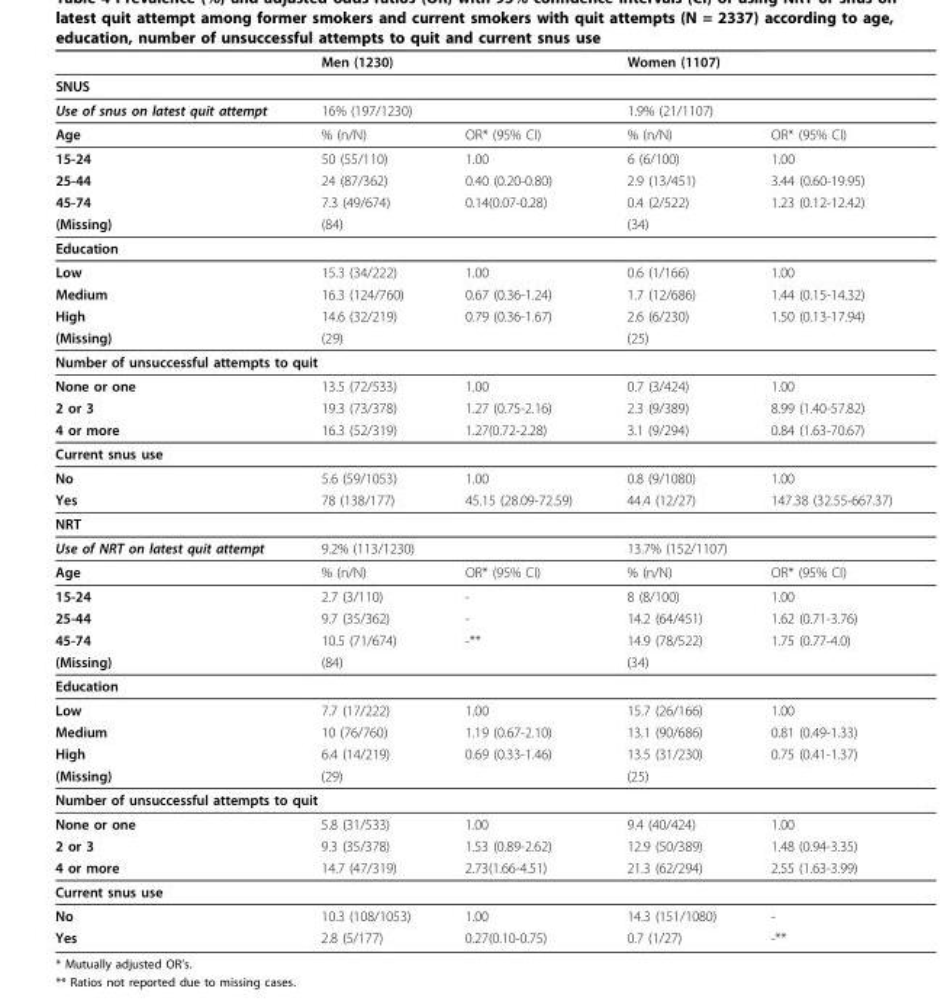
<table><thead><tr><td></td><td colspan="2">Men (1230)</td><td colspan="2">Women (1107)</td></tr><tr><td colspan="5">SNUS</td></tr><tr><td rowspan="2">Use of snus on latest quit attempt Age</td><td colspan="2">16% (197/1230)</td><td colspan="2">1.9% (21/1107)</td></tr><tr><td>% (n/N)</td><td>OR* (95% CI)</td><td>% (n/N)</td><td>OR* (95% CI)</td></tr></thead><tbody><tr><td>15-24</td><td>50 (55/110)</td><td>1.00</td><td>6 (6/100)</td><td>1.00</td></tr><tr><td>25-44</td><td>24 (87/362)</td><td>0.40 (0.20-0.80)</td><td>2.9 (13/451)</td><td>3.44 (0.60-19.95)</td></tr><tr><td>45-74</td><td>7.3 (49/674)</td><td>0.14(0.07-0.28)</td><td>0.4 (2/522)</td><td>1.23 (0.12-12.42)</td></tr><tr><td>(Missing)</td><td>(84)</td><td></td><td>(34)</td><td></td></tr><tr><td colspan="5">Education</td></tr><tr><td>Low</td><td>15.3 (34/222)</td><td>1.00</td><td>0.6 (1/166)</td><td>1.00</td></tr><tr><td>Medium</td><td>16.3 (124/760)</td><td>0.67 (0.36-1.24)</td><td>1.7 (12/686)</td><td>1.44 (0.15-14.32)</td></tr><tr><td>High</td><td>14.6 (32/219)</td><td>0.79 (0.36-1.67)</td><td>2.6 (6/230)</td><td>1.50 (0.13-17.94)</td></tr><tr><td>(Missing)</td><td>(29)</td><td></td><td>(25)</td><td></td></tr><tr><td colspan="5">Number of unsuccessful attempts to quit</td></tr><tr><td>None or one</td><td>13.5 (72/533)</td><td>1.00</td><td>0.7 (3/424)</td><td>1.00</td></tr><tr><td>2 or 3</td><td>19.3 (73/378)</td><td>1.27 (0.75-2.16)</td><td>2.3 (9/389)</td><td>8.99 (1.40-57.82)</td></tr><tr><td>4 or more</td><td>16.3 (52/319)</td><td>1.27(0.72-2.28)</td><td>3.1 (9/294)</td><td>0.84 (1.63-70.67)</td></tr><tr><td colspan="5">Current snus use</td></tr><tr><td>No</td><td>5.6 (59/1053)</td><td>1.00</td><td>0.8 (9/1080)</td><td>1.00</td></tr><tr><td>Yes</td><td>78 (138/177)</td><td>45.15 (28.09-72.59)</td><td>44.4 (12/27)</td><td>147.38 (32.55-667.37)</td></tr><tr><td colspan="5">NRT</td></tr><tr><td>Use of NRT on latest quit attempt</td><td colspan="2">9.2% (113/1230)</td><td colspan="2">13.7% (152/1107)</td></tr><tr><td>Age</td><td>% (n/N)</td><td>OR* (95% CI)</td><td>% (n/N)</td><td>OR* (95% CI)</td></tr><tr><td>15-24</td><td>2.7 (3/110)</td><td>-</td><td>8 (8/100)</td><td>1.00</td></tr><tr><td>25-44</td><td>9.7 (35/362)</td><td>-</td><td>14.2 (64/451)</td><td>1.62 (0.71-3.76)</td></tr><tr><td>45-74</td><td>10.5 (71/674)</td><td>-**</td><td>14.9 (78/522)</td><td>1.75 (0.77-4.0)</td></tr><tr><td>(Missing)</td><td>(84)</td><td></td><td>(34)</td><td></td></tr><tr><td colspan="5">Education</td></tr><tr><td>Low</td><td>7.7 (17/222)</td><td>1.00</td><td>15.7 (26/166)</td><td>1.00</td></tr><tr><td>Medium</td><td>10 (76/760)</td><td>1.19 (0.67-2.10)</td><td>13.1 (90/686)</td><td>0.81 (0.49-1.33)</td></tr><tr><td>High</td><td>6.4 (14/219)</td><td>0.69 (0.33-1.46)</td><td>13.5 (31/230)</td><td>0.75 (0.41-1.37)</td></tr><tr><td>(Missing)</td><td>(29)</td><td></td><td>(25)</td><td></td></tr><tr><td colspan="5">Number of unsuccessful attempts to quit</td></tr><tr><td>None or one</td><td>5.8 (31/533)</td><td>1.00</td><td>9.4 (40/424)</td><td>1.00</td></tr><tr><td>2 or 3</td><td>9.3 (35/378)</td><td>1.53 (0.89-2.62)</td><td>12.9 (50/389)</td><td>1.48 (0.94-3.35)</td></tr><tr><td>4 or more</td><td>14.7 (47/319)</td><td>2.73(1.66-4.51)</td><td>21.3 (62/294)</td><td>2.55 (1.63-3.99)</td></tr><tr><td colspan="5">Current snus use</td></tr><tr><td>No</td><td>10.3 (108/1053)</td><td>1.00</td><td>14.3 (151/1080)</td><td>-</td></tr><tr><td>Yes</td><td>2.8 (5/177)</td><td>0.27(0.10-0.75)</td><td>0.7 (1/27)</td><td>-**</td></tr></tbody></table>